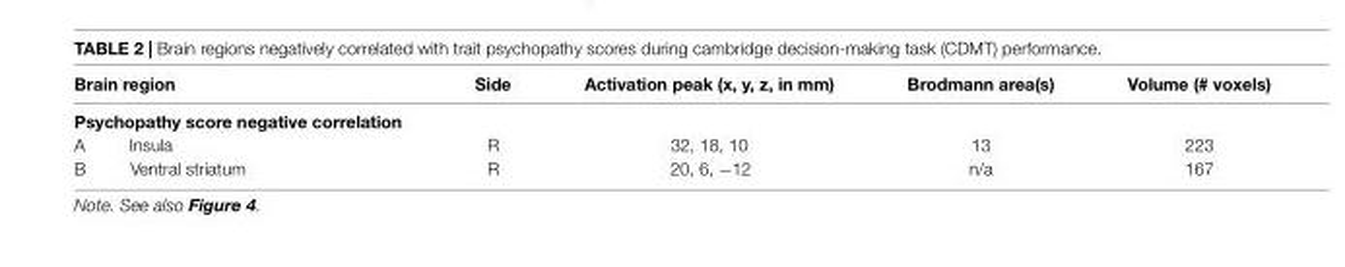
<table><thead><tr><td>Brain region</td><td>Side</td><td>Activation peak (x, y, z, in mm)</td><td>Brodmann area(s)</td><td>Volume (# voxels)</td></tr></thead><tbody><tr><td colspan="5">Psychopathy score negative correlation</td></tr><tr><td>A Insula</td><td>R</td><td>32, 18, 10</td><td>13</td><td>223</td></tr><tr><td>B Ventral striatum</td><td>R</td><td>20, 6, −12</td><td>n/a</td><td>167</td></tr></tbody></table>